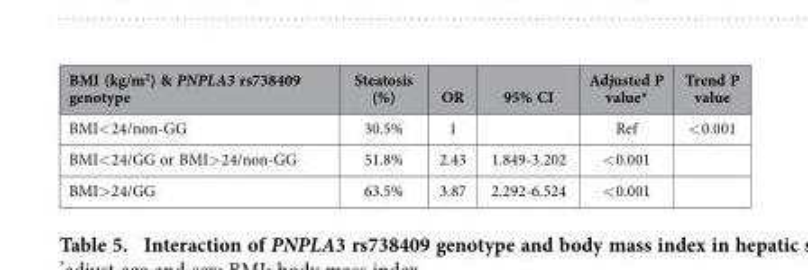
<table><thead><tr><td>BMI (kg/m<sup>2</sup>) &amp; PNPLA3 rs738409 genotype</td><td>Steatosis (%)</td><td>OR</td><td>95% CI</td><td>Adjusted P value*</td><td>Trend P value</td></tr></thead><tbody><tr><td>BMI&lt; 24/non-GG</td><td>30.5%</td><td>1</td><td></td><td>Ref</td><td>&lt; 0.001</td></tr><tr><td>BMI&lt; 24/GG or BMI&gt; 24/non-GG</td><td>51.8%</td><td>2.43</td><td>1.849-3.202</td><td>&lt; 0.001</td><td></td></tr><tr><td>BMI&gt; 24/GG</td><td>63.5%</td><td>3.87</td><td>2.292-6.524</td><td>&lt; 0.001</td><td></td></tr></tbody></table>